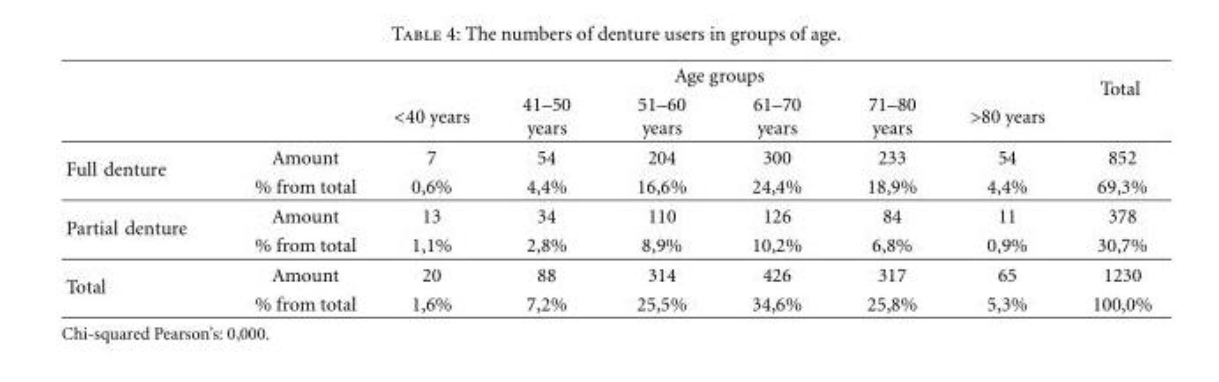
<table><thead><tr><td rowspan="2"></td><td rowspan="2"></td><td colspan="6">Age groups</td><td rowspan="2">Total</td></tr><tr><td>&lt;40 years</td><td>41–50 years</td><td>51–60 years</td><td>61–70 years</td><td>71–80 years</td><td>&gt;80 years</td></tr></thead><tbody><tr><td rowspan="2">Full denture</td><td>Amount</td><td>7</td><td>54</td><td>204</td><td>300</td><td>233</td><td>54</td><td>852</td></tr><tr><td>% from total</td><td>0,6%</td><td>4,4%</td><td>16,6%</td><td>24,4%</td><td>18,9%</td><td>4,4%</td><td>69,3%</td></tr><tr><td rowspan="2">Partial denture</td><td>Amount</td><td>13</td><td>34</td><td>110</td><td>126</td><td>84</td><td>11</td><td>378</td></tr><tr><td>% from total</td><td>1,1%</td><td>2,8%</td><td>8,9%</td><td>10,2%</td><td>6,8%</td><td>0,9%</td><td>30,7%</td></tr><tr><td rowspan="2">Total</td><td>Amount</td><td>20</td><td>88</td><td>314</td><td>426</td><td>317</td><td>65</td><td>1230</td></tr><tr><td>% from total</td><td>1,6%</td><td>7,2%</td><td>25,5%</td><td>34,6%</td><td>25,8%</td><td>5,3%</td><td>100,0%</td></tr></tbody></table>